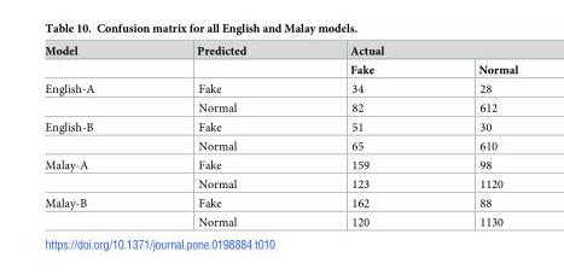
<table><thead><tr><td rowspan="2">Model</td><td rowspan="2">Predicted</td><td colspan="2">Actual</td></tr><tr><td>Fake</td><td>Normal</td></tr></thead><tbody><tr><td rowspan="2">English-A</td><td>Fake</td><td>34</td><td>28</td></tr><tr><td>Normal</td><td>82</td><td>612</td></tr><tr><td rowspan="2">English-B</td><td>Fake</td><td>51</td><td>30</td></tr><tr><td>Normal</td><td>65</td><td>610</td></tr><tr><td rowspan="2">Malay-A</td><td>Fake</td><td>159</td><td>98</td></tr><tr><td>Normal</td><td>123</td><td>1120</td></tr><tr><td rowspan="2">Malay-B</td><td>Fake</td><td>162</td><td>88</td></tr><tr><td>Normal</td><td>120</td><td>1130</td></tr></tbody></table>